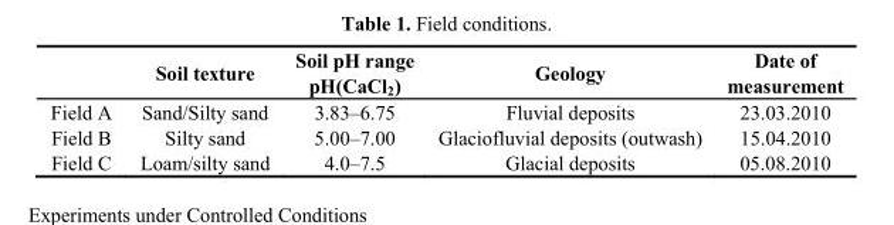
<table><thead><tr><td></td><td>Soil texture</td><td>Soil pH range pH(CaCl<sub>2</sub>)</td><td>Geology</td><td>Date of measurement</td></tr></thead><tbody><tr><td>Field A</td><td>Sand/Silty sand</td><td>3.83–6.75</td><td>Fluvial deposits</td><td>23.03.2010</td></tr><tr><td>Field B</td><td>Silty sand</td><td>5.00–7.00</td><td>Glaciofluvial deposits (outwash)</td><td>15.04.2010</td></tr><tr><td>Field C</td><td>Loam/silty sand</td><td>4.0–7.5</td><td>Glacial deposits</td><td>05.08.2010</td></tr></tbody></table>